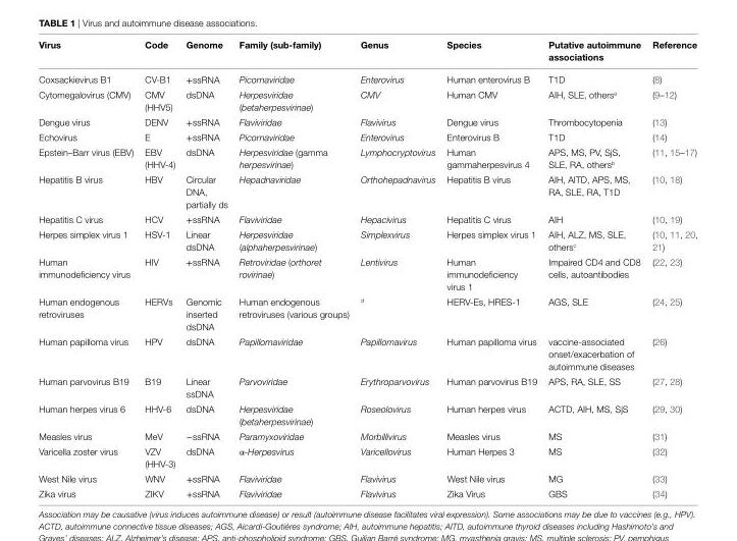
<table><thead><tr><td>Virus</td><td>Code</td><td>Genome</td><td>Family (sub-family)</td><td>Genus</td><td>species</td><td>putative autoimmune associations</td><td>reference</td></tr></thead><tbody><tr><td>Coxsackievirus B1</td><td>CV-B1</td><td>+ssRNA</td><td>Picornaviridae</td><td>Enterovirus</td><td>Human enterovirus B</td><td>T1D</td><td>(8)</td></tr><tr><td>Cytomegalovirus (CMV)</td><td>CMV (HHV5)</td><td>dsDNA</td><td>Herpesviridae (betaherpesvirinae)</td><td>CMV</td><td>Human CMV</td><td>AIH, SLE, others<sup>a</sup></td><td>(9–12)</td></tr><tr><td>Dengue virus</td><td>DENV</td><td>+ssRNA</td><td>Flaviviridae</td><td>Flavivirus</td><td>Dengue virus</td><td>Thrombocytopenia</td><td>(13)</td></tr><tr><td>Echovirus</td><td>E</td><td>+ssRNA</td><td>Picornaviridae</td><td>Enterovirus</td><td>Enterovirus B</td><td>T1D</td><td>(14)</td></tr><tr><td>Epstein–Barr virus (EBV)</td><td>EBV (HHV-4)</td><td>dsDNA</td><td>Herpesviridae (gamma herpesvirinae)</td><td>Lymphocryptovirus</td><td>Human gammaherpesvirus 4</td><td>APS, MS, PV, SjS, SLE, RA, others<sup>b</sup></td><td>(11, 15–17)</td></tr><tr><td>Hepatitis B virus</td><td>HBV</td><td>Circular DNA, partially ds</td><td>Hepadnaviridae</td><td>Orthohepadnavirus</td><td>Hepatitis B virus</td><td>AIH, AITD, APS, MS, RA, SLE, RA, T1D</td><td>(10, 18)</td></tr><tr><td>Hepatitis C virus</td><td>HCV</td><td>+ssRNA</td><td>Flaviviridae</td><td>Hepacivirus</td><td>Hepatitis C virus</td><td>AIH</td><td>(10, 19)</td></tr><tr><td>Herpes simplex virus 1</td><td>HSV-1</td><td>Linear dsDNA</td><td>Herpesviridae (alphaherpesvirinae)</td><td>Simplexvirus</td><td>Herpes simplex virus 1</td><td>AIH, ALZ, MS, SLE, others<sup>c</sup></td><td>(10, 11, 20, 21)</td></tr><tr><td>Human immunodeficiency virus</td><td>HIV</td><td>+ssRNA</td><td>Retroviridae (orthoret rovirinae)</td><td>Lentivirus</td><td>Human immunodeficiency virus 1</td><td>Impaired CD4 and CD8 cells, autoantibodies</td><td>(22, 23)</td></tr><tr><td>Human endogenous retroviruses</td><td>HERVs</td><td>Genomic inserted dsDNA</td><td>Human endogenous retroviruses (various groups)</td><td><sup>d</sup></td><td>HERV-Es, HRES-1</td><td>AGS, SLE</td><td>(24, 25)</td></tr><tr><td>Human papilloma virus</td><td>HPV</td><td>dsDNA</td><td>Papillomaviridae</td><td>Papillomavirus</td><td>Human papilloma virus</td><td>vaccine-associated onset/exacerbation of autoimmune diseases</td><td>(26)</td></tr><tr><td>Human parvovirus B19</td><td>B19</td><td>Linear ssDNA</td><td>Parvoviridae</td><td>Erythroparvovirus</td><td>Human parvovirus B19</td><td>APS, RA, SLE, SS</td><td>(27, 28)</td></tr><tr><td>Human herpes virus 6</td><td>HHV-6</td><td>dsDNA</td><td>Herpesviridae (betaherpesvirinae)</td><td>Roseolovirus</td><td>Human herpes virus</td><td>ACTD, AIH, MS, SjS</td><td>(29, 30)</td></tr><tr><td>Measles virus</td><td>MeV</td><td>−ssRNA</td><td>Paramyxoviridae</td><td>Morbillivirus</td><td>Measles virus</td><td>MS</td><td>(31)</td></tr><tr><td>Varicella zoster virus</td><td>VZV (HHV-3)</td><td>dsDNA</td><td>α-Herpesvirus</td><td>Varicellovirus</td><td>Human Herpes 3</td><td>MS</td><td>(32)</td></tr><tr><td>West Nile virus</td><td>WNV</td><td>+ssRNA</td><td>Flaviviridae</td><td>Flavivirus</td><td>West Nile virus</td><td>MG</td><td>(33)</td></tr><tr><td>Zika virus</td><td>ZIKV</td><td>+ssRNA</td><td>Flaviviridae</td><td>Flavivirus</td><td>Zika Virus</td><td>GBS</td><td>(34)</td></tr></tbody></table>